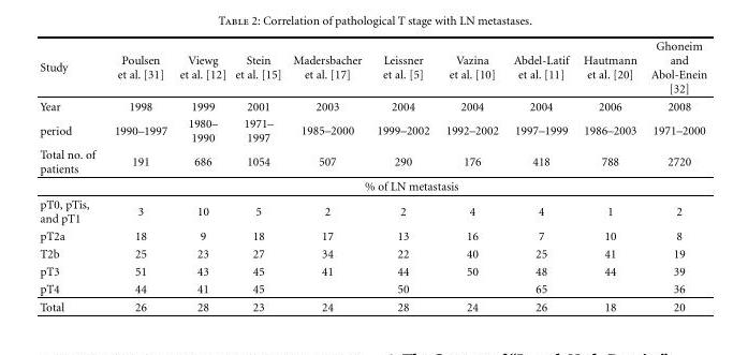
<table><thead><tr><td>Study</td><td>Poulsen et al. [31]</td><td>Viewg et al. [12]</td><td>Stein et al. [15]</td><td>Madersbacher et al. [17]</td><td>Leissner et al. [5]</td><td>Vazina et al. [10]</td><td>Abdel-Latif et al. [11]</td><td>Hautmann et al. [20]</td><td>Ghoneim and Abol-Enein [32]</td></tr></thead><tbody><tr><td>Year</td><td>1998</td><td>1999</td><td>2001</td><td>2003</td><td>2004</td><td>2004</td><td>2004</td><td>2006</td><td>2008</td></tr><tr><td>period</td><td>1990–1997</td><td>1980– 1990</td><td>1971– 1997</td><td>1985–2000</td><td>1999–2002</td><td>1992–2002</td><td>1997–1999</td><td>1986–2003</td><td>1971–2000</td></tr><tr><td rowspan="2">Total no. of patients</td><td>191</td><td>686</td><td>1054</td><td>507</td><td>290</td><td>176</td><td>418</td><td>788</td><td>2720</td></tr><tr><td colspan="9">% of LN metastasis</td></tr><tr><td>pT0, pTis, and pT1</td><td>3</td><td>10</td><td>5</td><td>2</td><td>2</td><td>4</td><td>4</td><td>1</td><td>2</td></tr><tr><td>pT2a</td><td>18</td><td>9</td><td>18</td><td>17</td><td>13</td><td>16</td><td>7</td><td>10</td><td>8</td></tr><tr><td>T2b</td><td>25</td><td>23</td><td>27</td><td>34</td><td>22</td><td>40</td><td>25</td><td>41</td><td>19</td></tr><tr><td>pT3</td><td>51</td><td>43</td><td>45</td><td>41</td><td>44</td><td>50</td><td>48</td><td>44</td><td>39</td></tr><tr><td>pT4</td><td>44</td><td>41</td><td>45</td><td></td><td>50</td><td></td><td>65</td><td></td><td>36</td></tr><tr><td>Total</td><td>26</td><td>28</td><td>23</td><td>24</td><td>28</td><td>24</td><td>26</td><td>18</td><td>20</td></tr></tbody></table>